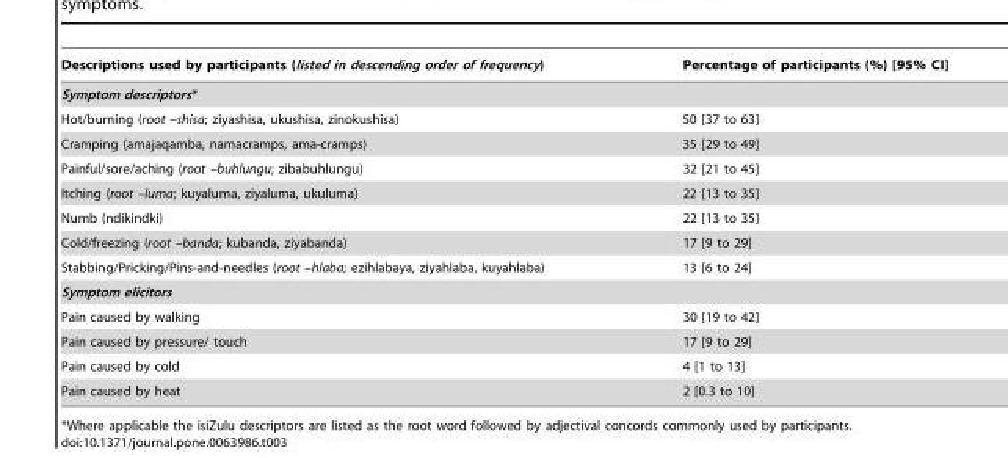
<table><thead><tr><td>Descriptions used by participants (listed in descending order of frequency)</td><td>Percentage of participants (%) [95% CI]</td></tr></thead><tbody><tr><td colspan="2">Symptom descriptors*</td></tr><tr><td>Hot/burning (root –shisa; ziyashisa, ukushisa, zinokushisa)</td><td>50 [37 to 63]</td></tr><tr><td>Cramping (amajaqamba, namacramps, ama-cramps)</td><td>35 [29 to 49]</td></tr><tr><td>Painful/sore/aching (root –buhlungu; zibabuhlungu)</td><td>32 [21 to 45]</td></tr><tr><td>Itching (root –luma; kuyaluma, ziyaluma, ukuluma)</td><td>22 [13 to 35]</td></tr><tr><td>Numb (ndikindki)</td><td>22 [13 to 35]</td></tr><tr><td>Cold/freezing (root –banda; kubanda, ziyabanda)</td><td>17 [9 to 29]</td></tr><tr><td>Stabbing/Pricking/Pins-and-needles (root –hlaba; ezihlabaya, ziyahlaba, kuyahlaba)</td><td>13 [6 to 24]</td></tr><tr><td colspan="2">Symptom elicitors</td></tr><tr><td>Pain caused by walking</td><td>30 [19 to 42]</td></tr><tr><td>Pain caused by pressure/ touch</td><td>17 [9 to 29]</td></tr><tr><td>Pain caused by cold</td><td>4 [1 to 13]</td></tr><tr><td>Pain caused by heat</td><td>2 [0.3 to 10]</td></tr></tbody></table>